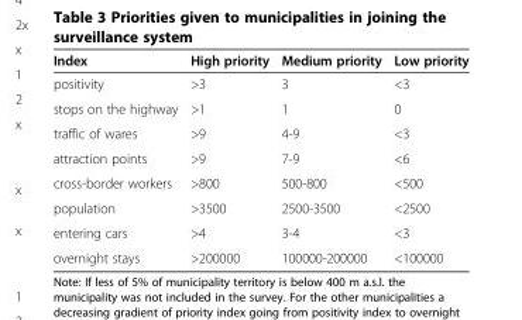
<table><thead><tr><td>Index</td><td>High priority</td><td>Medium priority</td><td>Low priority</td></tr></thead><tbody><tr><td>positivity</td><td>&gt;3</td><td>3</td><td>&lt;3</td></tr><tr><td>stops on the highway</td><td>&gt;1</td><td>1</td><td>0</td></tr><tr><td>traffic of wares</td><td>&gt;9</td><td>4-9</td><td>&lt;3</td></tr><tr><td>attraction points</td><td>&gt;9</td><td>7-9</td><td>&lt;6</td></tr><tr><td>cross-border workers</td><td>&gt;800</td><td>500-800</td><td>&lt;500</td></tr><tr><td>population</td><td>&gt;3500</td><td>2500-3500</td><td>&lt;2500</td></tr><tr><td>entering cars</td><td>&gt;4</td><td>3-4</td><td>&lt;3</td></tr><tr><td>overnight stays</td><td>&gt;200000</td><td>100000-200000</td><td>&lt;100000</td></tr></tbody></table>